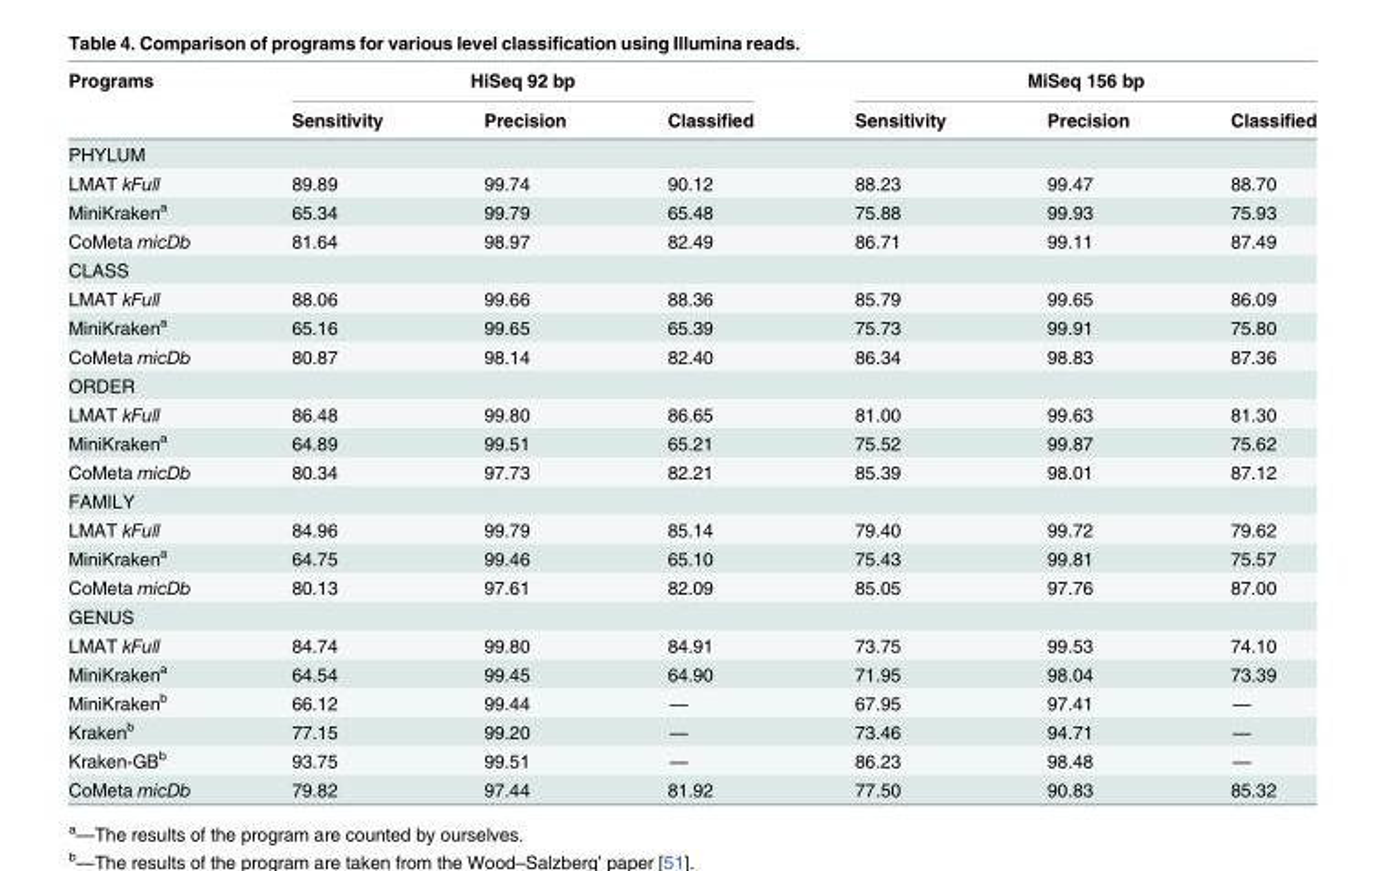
<table><thead><tr><td rowspan="2">Programs</td><td colspan="3">HiSeq 92 bp</td><td colspan="3">MiSeq 156 bp</td></tr><tr><td>Sensitivity</td><td>Precision</td><td>Classified</td><td>Sensitivity</td><td>Precision</td><td>Classified</td></tr></thead><tbody><tr><td colspan="7">PHYLUM</td></tr><tr><td>LMAT kFull</td><td>89.89</td><td>99.74</td><td>90.12</td><td>88.23</td><td>99.47</td><td>88.70</td></tr><tr><td>MiniKraken<sup>a</sup></td><td>65.34</td><td>99.79</td><td>65.48</td><td>75.88</td><td>99.93</td><td>75.93</td></tr><tr><td>CoMeta micDb</td><td>81.64</td><td>98.97</td><td>82.49</td><td>86.71</td><td>99.11</td><td>87.49</td></tr><tr><td colspan="7">CLASS</td></tr><tr><td>LMAT kFull</td><td>88.06</td><td>99.66</td><td>88.36</td><td>85.79</td><td>99.65</td><td>86.09</td></tr><tr><td>MiniKraken<sup>a</sup></td><td>65.16</td><td>99.65</td><td>65.39</td><td>75.73</td><td>99.91</td><td>75.80</td></tr><tr><td>CoMeta micDb</td><td>80.87</td><td>98.14</td><td>82.40</td><td>86.34</td><td>98.83</td><td>87.36</td></tr><tr><td colspan="7">ORDER</td></tr><tr><td>LMAT kFull</td><td>86.48</td><td>99.80</td><td>86.65</td><td>81.00</td><td>99.63</td><td>81.30</td></tr><tr><td>MiniKraken<sup>a</sup></td><td>64.89</td><td>99.51</td><td>65.21</td><td>75.52</td><td>99.87</td><td>75.62</td></tr><tr><td>CoMeta micDb</td><td>80.34</td><td>97.73</td><td>82.21</td><td>85.39</td><td>98.01</td><td>87.12</td></tr><tr><td colspan="7">FAMILY</td></tr><tr><td>LMAT kFull</td><td>84.96</td><td>99.79</td><td>85.14</td><td>79.40</td><td>99.72</td><td>79.62</td></tr><tr><td>MiniKraken<sup>a</sup></td><td>64.75</td><td>99.46</td><td>65.10</td><td>75.43</td><td>99.81</td><td>75.57</td></tr><tr><td>CoMeta micDb</td><td>80.13</td><td>97.61</td><td>82.09</td><td>85.05</td><td>97.76</td><td>87.00</td></tr><tr><td colspan="7">GENUS</td></tr><tr><td>LMAT kFull</td><td>84.74</td><td>99.80</td><td>84.91</td><td>73.75</td><td>99.53</td><td>74.10</td></tr><tr><td>MiniKraken<sup>a</sup></td><td>64.54</td><td>99.45</td><td>64.90</td><td>71.95</td><td>98.04</td><td>73.39</td></tr><tr><td>MiniKraken<sup>b</sup></td><td>66.12</td><td>99.44</td><td>—</td><td>67.95</td><td>97.41</td><td>—</td></tr><tr><td>Kraken<sup>b</sup></td><td>77.15</td><td>99.20</td><td>—</td><td>73.46</td><td>94.71</td><td>—</td></tr><tr><td>Kraken-GB<sup>b</sup></td><td>93.75</td><td>99.51</td><td>—</td><td>86.23</td><td>98.48</td><td>—</td></tr><tr><td>CoMeta micDb</td><td>79.82</td><td>97.44</td><td>81.92</td><td>77.50</td><td>90.83</td><td>85.32</td></tr></tbody></table>